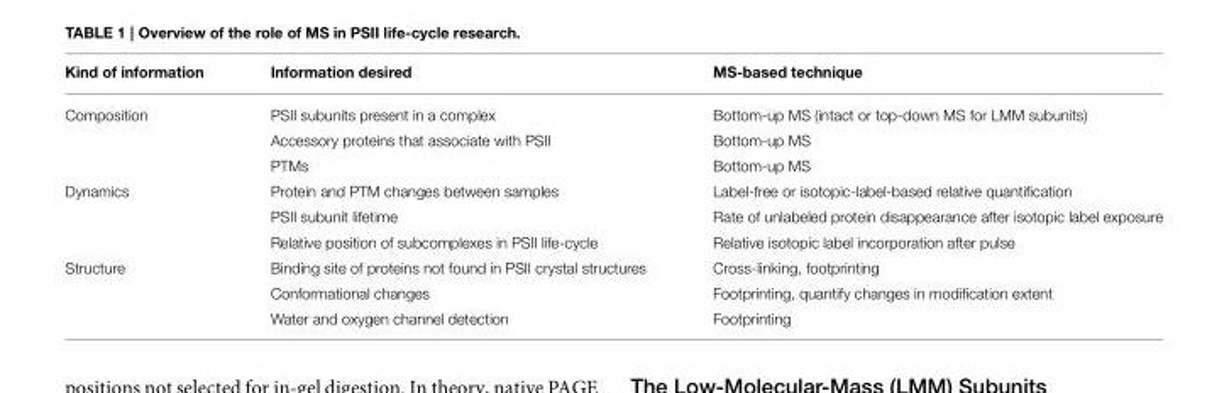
<table><thead><tr><td>Kind of information</td><td>Information desired</td><td>MS-based technique</td></tr></thead><tbody><tr><td rowspan="3">Composition</td><td>PSII subunits present in a complex</td><td>Bottom-up MS (intact or top-down MS for LMM subunits)</td></tr><tr><td>Accessory proteins that associate with PSII</td><td>Bottom-up MS</td></tr><tr><td>PTMs</td><td>Bottom-up MS</td></tr><tr><td rowspan="3">Dynamics</td><td>Protein and PTM changes between samples</td><td>Label-free or isotopic-label-based relative quantification</td></tr><tr><td>PSII subunit lifetime</td><td>Rate of unlabeled protein disappearance after isotopic label exposure</td></tr><tr><td>Relative position of subcomplexes in PSII life-cycle</td><td>Relative isotopic label incorporation after pulse</td></tr><tr><td rowspan="3">Structure</td><td>Binding site of proteins not found in PSII crystal structures</td><td>Cross-linking, footprinting</td></tr><tr><td>Conformational changes</td><td>Footprinting, quantify changes in modification extent</td></tr><tr><td>Water and oxygen channel detection</td><td>Footprinting</td></tr></tbody></table>